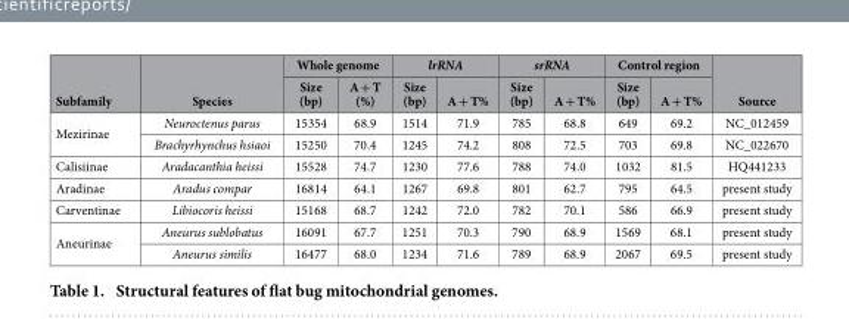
<table><thead><tr><td rowspan="2">Subfamily</td><td rowspan="2">Species</td><td colspan="2">Whole genome</td><td colspan="2">lrRNA</td><td colspan="2">srRNA</td><td colspan="2">Control region</td><td rowspan="2">Source</td></tr><tr><td>Size (bp)</td><td>A + T (%)</td><td>Size (bp)</td><td>A + T%</td><td>Size (bp)</td><td>A + T%</td><td>Size (bp)</td><td>A + T%</td></tr></thead><tbody><tr><td rowspan="2">Mezirinae</td><td>Neuroctenus parus</td><td>15354</td><td>68.9</td><td>1514</td><td>71.9</td><td>785</td><td>68.8</td><td>649</td><td>69.2</td><td>NC_012459</td></tr><tr><td>Brachyrhynchus hsiaoi</td><td>15250</td><td>70.4</td><td>1245</td><td>74.2</td><td>808</td><td>72.5</td><td>703</td><td>69.8</td><td>NC_022670</td></tr><tr><td>Calisiinae</td><td>Aradacanthia heissi</td><td>15528</td><td>74.7</td><td>1230</td><td>77.6</td><td>788</td><td>74.0</td><td>1032</td><td>81.5</td><td>HQ441233</td></tr><tr><td>Aradinae</td><td>Aradus compar</td><td>16814</td><td>64.1</td><td>1267</td><td>69.8</td><td>801</td><td>62.7</td><td>795</td><td>64.5</td><td>present study</td></tr><tr><td>Carventinae</td><td>Libiocoris heissi</td><td>15168</td><td>68.7</td><td>1242</td><td>72.0</td><td>782</td><td>70.1</td><td>586</td><td>66.9</td><td>present study</td></tr><tr><td rowspan="2">Aneurinae</td><td>Aneurus sublobatus</td><td>16091</td><td>67.7</td><td>1251</td><td>70.3</td><td>790</td><td>68.9</td><td>1569</td><td>68.1</td><td>present study</td></tr><tr><td>Aneurus similis</td><td>16477</td><td>68.0</td><td>1234</td><td>71.6</td><td>789</td><td>68.9</td><td>2067</td><td>69.5</td><td>present study</td></tr></tbody></table>